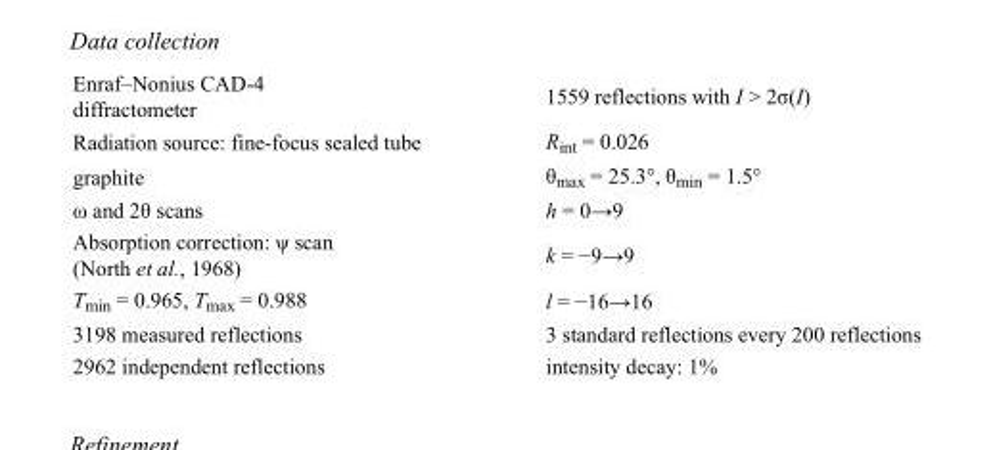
<table><tbody><tr><td>Enraf–Nonius CAD-4 diffractometer</td><td>1559 reflections with I &gt; 2σ(I)</td></tr><tr><td>Radiation source: fine-focus sealed tube</td><td>R<sub>int</sub> = 0.026</td></tr><tr><td>graphite</td><td>θ<sub>max</sub> = 25.3°, θ<sub>min</sub> = 1.5°</td></tr><tr><td>ω and 2θ scans</td><td>h = 0→9</td></tr><tr><td>Absorption correction: ψ scan (North et al., 1968)</td><td>k = −9→9</td></tr><tr><td>T<sub>min</sub> = 0.965, T<sub>max</sub> = 0.988</td><td>l = −16→16</td></tr><tr><td>3198 measured reflections</td><td>3 standard reflections every 200 reflections</td></tr><tr><td>2962 independent reflections</td><td>intensity decay: 1%</td></tr></tbody></table>